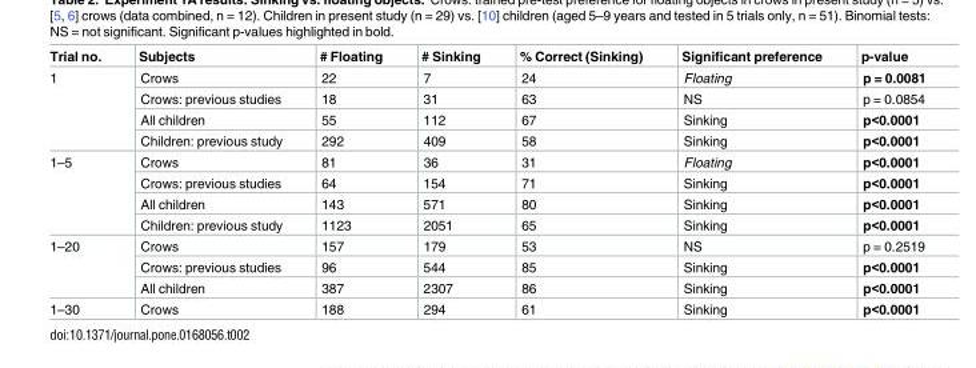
<table><thead><tr><td>Trial no.</td><td>Subjects</td><td># Floating</td><td># Sinking</td><td>% Correct (Sinking)</td><td>Significant preference</td><td>p-value</td></tr></thead><tbody><tr><td rowspan="4">1</td><td>Crows</td><td>22</td><td>7</td><td>24</td><td>Floating</td><td>p = 0.0081</td></tr><tr><td>Crows: previous studies</td><td>18</td><td>31</td><td>63</td><td>NS</td><td>p = 0.0854</td></tr><tr><td>All children</td><td>55</td><td>112</td><td>67</td><td>Sinking</td><td>p&lt;0.0001</td></tr><tr><td>Children: previous study</td><td>292</td><td>409</td><td>58</td><td>Sinking</td><td>p&lt;0.0001</td></tr><tr><td rowspan="4">1–5</td><td>Crows</td><td>81</td><td>36</td><td>31</td><td>Floating</td><td>p&lt;0.0001</td></tr><tr><td>Crows: previous studies</td><td>64</td><td>154</td><td>71</td><td>Sinking</td><td>p&lt;0.0001</td></tr><tr><td>All children</td><td>143</td><td>571</td><td>80</td><td>Sinking</td><td>p&lt;0.0001</td></tr><tr><td>Children: previous study</td><td>1123</td><td>2051</td><td>65</td><td>Sinking</td><td>p&lt;0.0001</td></tr><tr><td rowspan="3">1–20</td><td>Crows</td><td>157</td><td>179</td><td>53</td><td>NS</td><td>p = 0.2519</td></tr><tr><td>Crows: previous studies</td><td>96</td><td>544</td><td>85</td><td>Sinking</td><td>p&lt;0.0001</td></tr><tr><td>All children</td><td>387</td><td>2307</td><td>86</td><td>Sinking</td><td>p&lt;0.0001</td></tr><tr><td>1–30</td><td>Crows</td><td>188</td><td>294</td><td>61</td><td>Sinking</td><td>p&lt;0.0001</td></tr></tbody></table>